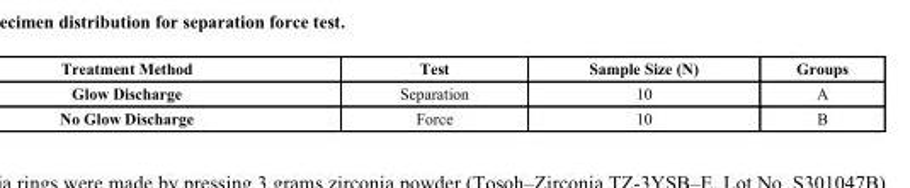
<table><thead><tr><td>Treatment Method</td><td>Test</td><td>Sample Size (N)</td><td>Groups</td></tr></thead><tbody><tr><td>Glow Discharge</td><td>Separation</td><td>10</td><td>A</td></tr><tr><td>No Glow Discharge</td><td>Force</td><td>10</td><td>B</td></tr></tbody></table>